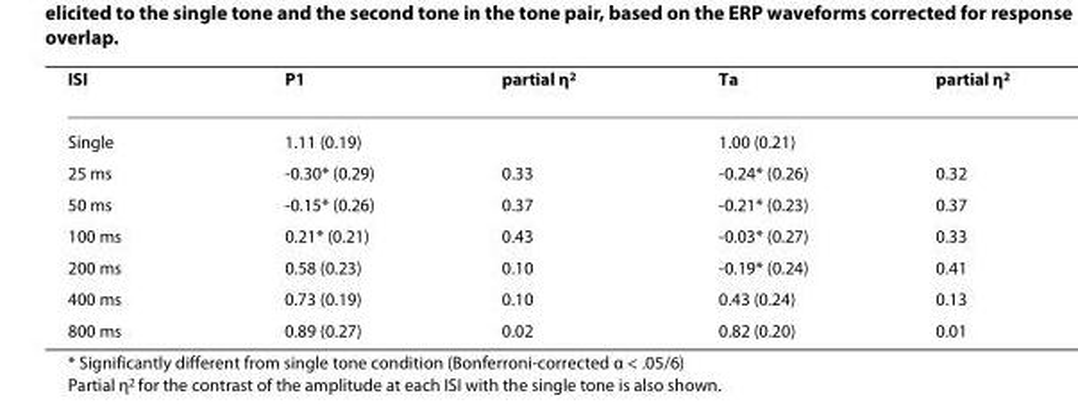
<table><thead><tr><td>ISI</td><td>P1</td><td>partial η<sup>2</sup></td><td>Ta</td><td>partial η<sup>2</sup></td></tr></thead><tbody><tr><td>Single</td><td>1.11 (0.19)</td><td></td><td>1.00 (0.21)</td><td></td></tr><tr><td>25 ms</td><td>-0.30* (0.29)</td><td>0.33</td><td>-0.24* (0.26)</td><td>0.32</td></tr><tr><td>50 ms</td><td>-0.15* (0.26)</td><td>0.37</td><td>-0.21* (0.23)</td><td>0.37</td></tr><tr><td>100 ms</td><td>0.21* (0.21)</td><td>0.43</td><td>-0.03* (0.27)</td><td>0.33</td></tr><tr><td>200 ms</td><td>0.58 (0.23)</td><td>0.10</td><td>-0.19* (0.24)</td><td>0.41</td></tr><tr><td>400 ms</td><td>0.73 (0.19)</td><td>0.10</td><td>0.43 (0.24)</td><td>0.13</td></tr><tr><td>800 ms</td><td>0.89 (0.27)</td><td>0.02</td><td>0.82 (0.20)</td><td>0.01</td></tr></tbody></table>